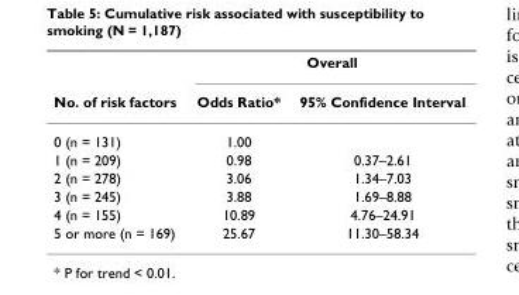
<table><thead><tr><td rowspan="2">No. of risk factors</td><td colspan="2">Overall</td></tr><tr><td>Odds Ratio*</td><td>95% Confidence Interval</td></tr></thead><tbody><tr><td>0 (n = 131)</td><td>1.00</td><td></td></tr><tr><td>1 (n = 209)</td><td>0.98</td><td>0.37–2.61</td></tr><tr><td>2 (n = 278)</td><td>3.06</td><td>1.34–7.03</td></tr><tr><td>3 (n = 245)</td><td>3.88</td><td>1.69–8.88</td></tr><tr><td>4 (n = 155)</td><td>10.89</td><td>4.76–24.91</td></tr><tr><td>5 or more (n = 169)</td><td>25.67</td><td>11.30–58.34</td></tr></tbody></table>